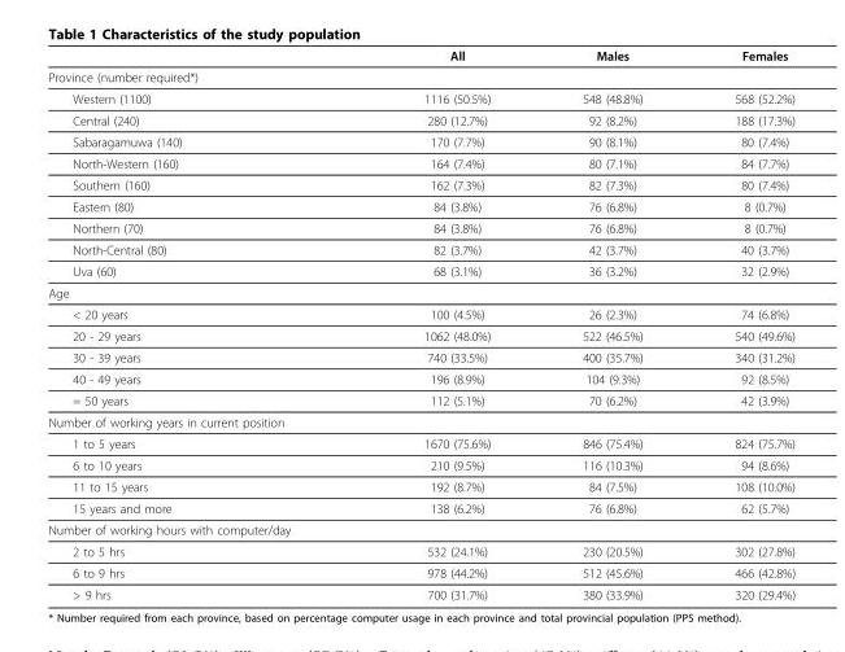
<table><thead><tr><td></td><td>All</td><td>Males</td><td>Females</td></tr></thead><tbody><tr><td colspan="4">Province (number required*)</td></tr><tr><td>Western (1100)</td><td>1116 (50.5%)</td><td>548 (48.8%)</td><td>568 (52.2%)</td></tr><tr><td>Central (240)</td><td>280 (12.7%)</td><td>92 (8.2%)</td><td>188 (17.3%)</td></tr><tr><td>Sabaragamuwa (140)</td><td>170 (7.7%)</td><td>90 (8.1%)</td><td>80 (7.4%)</td></tr><tr><td>North-Western (160)</td><td>164 (7.4%)</td><td>80 (7.1%)</td><td>84 (7.7%)</td></tr><tr><td>Southern (160)</td><td>162 (7.3%)</td><td>82 (7.3%)</td><td>80 (7.4%)</td></tr><tr><td>Eastern (80)</td><td>84 (3.8%)</td><td>76 (6.8%)</td><td>8 (0.7%)</td></tr><tr><td>Northern (70)</td><td>84 (3.8%)</td><td>76 (6.8%)</td><td>8 (0.7%)</td></tr><tr><td>North-Central (80)</td><td>82 (3.7%)</td><td>42 (3.7%)</td><td>40 (3.7%)</td></tr><tr><td>Uva (60)</td><td>68 (3.1%)</td><td>36 (3.2%)</td><td>32 (2.9%)</td></tr><tr><td colspan="4">Age</td></tr><tr><td>&lt; 20 years</td><td>100 (4.5%)</td><td>26 (2.3%)</td><td>74 (6.8%)</td></tr><tr><td>20 - 29 years</td><td>1062 (48.0%)</td><td>522 (46.5%)</td><td>540 (49.6%)</td></tr><tr><td>30 - 39 years</td><td>740 (33.5%)</td><td>400 (35.7%)</td><td>340 (31.2%)</td></tr><tr><td>40 - 49 years</td><td>196 (8.9%)</td><td>104 (9.3%)</td><td>92 (8.5%)</td></tr><tr><td>= 50 years</td><td>112 (5.1%)</td><td>70 (6.2%)</td><td>42 (3.9%)</td></tr><tr><td colspan="4">Number of working years in current position</td></tr><tr><td>1 to 5 years</td><td>1670 (75.6%)</td><td>846 (75.4%)</td><td>824 (75.7%)</td></tr><tr><td>6 to 10 years</td><td>210 (9.5%)</td><td>116 (10.3%)</td><td>94 (8.6%)</td></tr><tr><td>11 to 15 years</td><td>192 (8.7%)</td><td>84 (7.5%)</td><td>108 (10.0%)</td></tr><tr><td>15 years and more</td><td>138 (6.2%)</td><td>76 (6.8%)</td><td>62 (5.7%)</td></tr><tr><td colspan="4">Number of working hours with computer/day</td></tr><tr><td>2 to 5 hrs</td><td>532 (24.1%)</td><td>230 (20.5%)</td><td>302 (27.8%)</td></tr><tr><td>6 to 9 hrs</td><td>978 (44.2%)</td><td>512 (45.6%)</td><td>466 (42.8%)</td></tr><tr><td>&gt; 9 hrs</td><td>700 (31.7%)</td><td>380 (33.9%)</td><td>320 (29.4%)</td></tr></tbody></table>